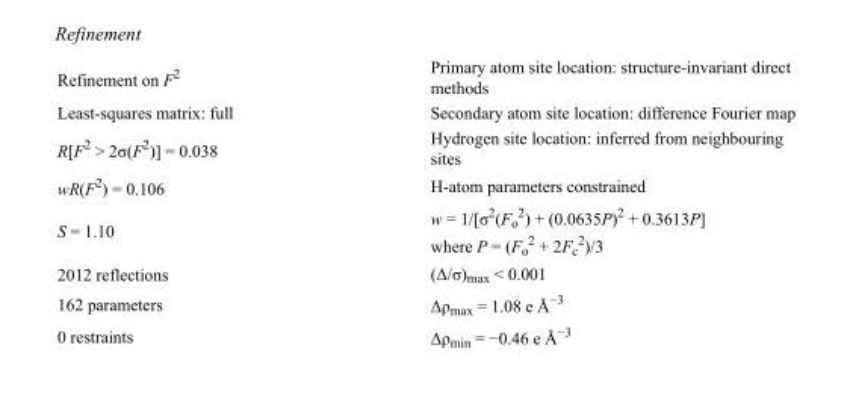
<table><tbody><tr><td>Refinement on F<sup>2</sup></td><td>Primary atom site location: structure-invariant direct methods</td></tr><tr><td>Least-squares matrix: full</td><td>Secondary atom site location: difference Fourier map</td></tr><tr><td>R[F<sup>2</sup> &gt; 2σ(F<sup>2</sup>)] = 0.038</td><td>Hydrogen site location: inferred from neighbouring sites</td></tr><tr><td>wR(F<sup>2</sup>) = 0.106</td><td>H-atom parameters constrained</td></tr><tr><td>S = 1.10</td><td>w = 1/[σ<sup>2</sup>(F<sub>o</sub> <sup>2</sup>) + (0.0635P)<sup>2</sup> + 0.3613P] where P = (F<sub>o</sub> <sup>2</sup> + 2F<sub>c</sub> <sup>2</sup>)/3</td></tr><tr><td>2012 reflections</td><td>(Δ/σ)<sub>max</sub> &lt; 0.001</td></tr><tr><td>162 parameters</td><td>Δρ<sub>max</sub> = 1.08 e Å<sup>−3</sup></td></tr><tr><td>0 restraints</td><td>Δρ<sub>min</sub> = −0.46 e Å<sup>−3</sup></td></tr></tbody></table>